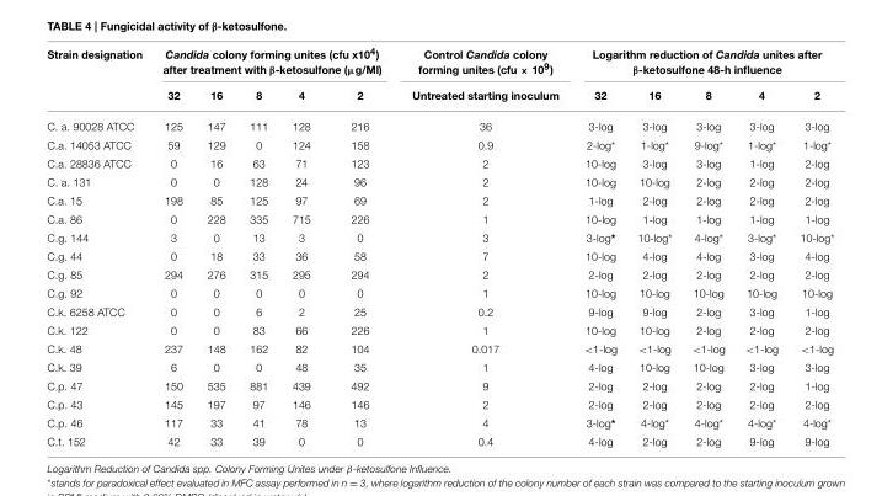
<table><thead><tr><td rowspan="2">Strain designation</td><td colspan="5">Candida colony forming unites (cfu x10<sup>4</sup>) after treatment with β-ketosulfone (µg/Ml)</td><td rowspan="2">Control Candida colony forming unites (cfu × 10<sup>9</sup>) Untreated starting inoculum</td><td colspan="5">Logarithm reduction of Candida unites after β-ketosulfone 48-h influence</td></tr><tr><td>32</td><td>16</td><td>8</td><td>4</td><td>2</td><td>32</td><td>16</td><td>8</td><td>4</td><td>2</td></tr></thead><tbody><tr><td>C. a. 90028 ATCC</td><td>125</td><td>147</td><td>111</td><td>128</td><td>216</td><td>36</td><td>3-log</td><td>3-log</td><td>3-log</td><td>3-log</td><td>3-log</td></tr><tr><td>C.a. 14053 ATCC</td><td>59</td><td>129</td><td>0</td><td>124</td><td>158</td><td>0.9</td><td>2-log*</td><td>1-log*</td><td>9-log*</td><td>1-log*</td><td>1-log*</td></tr><tr><td>C.a. 28836 ATCC</td><td>0</td><td>16</td><td>63</td><td>71</td><td>123</td><td>2</td><td>10-log</td><td>3-log</td><td>3-log</td><td>1-log</td><td>2-log</td></tr><tr><td>C. a. 131</td><td>0</td><td>0</td><td>128</td><td>24</td><td>96</td><td>2</td><td>10-log</td><td>10-log</td><td>2-log</td><td>2-log</td><td>2-log</td></tr><tr><td>C.a. 15</td><td>198</td><td>85</td><td>125</td><td>97</td><td>69</td><td>2</td><td>1-log</td><td>2-log</td><td>2-log</td><td>2-log</td><td>2-log</td></tr><tr><td>C.a. 86</td><td>0</td><td>228</td><td>335</td><td>715</td><td>226</td><td>1</td><td>10-log</td><td>1-log</td><td>1-log</td><td>1-log</td><td>1-log</td></tr><tr><td>C.g. 144</td><td>3</td><td>0</td><td>13</td><td>3</td><td>0</td><td>3</td><td>3-log*</td><td>10-log*</td><td>4-log*</td><td>3-log*</td><td>10-log*</td></tr><tr><td>C.g. 44</td><td>0</td><td>18</td><td>33</td><td>36</td><td>58</td><td>7</td><td>10-log</td><td>4-log</td><td>4-log</td><td>3-log</td><td>4-log</td></tr><tr><td>C.g. 85</td><td>294</td><td>276</td><td>315</td><td>295</td><td>294</td><td>2</td><td>2-log</td><td>2-log</td><td>2-log</td><td>2-log</td><td>2-log</td></tr><tr><td>C.g. 92</td><td>0</td><td>0</td><td>0</td><td>0</td><td>0</td><td>1</td><td>10-log</td><td>10-log</td><td>10-log</td><td>10-log</td><td>10-log</td></tr><tr><td>C.k. 6258 ATCC</td><td>0</td><td>0</td><td>6</td><td>2</td><td>25</td><td>0.2</td><td>9-log</td><td>9-log</td><td>2-log</td><td>3-log</td><td>1-log</td></tr><tr><td>C.k. 122</td><td>0</td><td>0</td><td>83</td><td>66</td><td>226</td><td>1</td><td>10-log</td><td>10-log</td><td>2-log</td><td>2-log</td><td>2-log</td></tr><tr><td>C.k. 48</td><td>237</td><td>148</td><td>162</td><td>82</td><td>104</td><td>0.017</td><td>&lt;1-log</td><td>&lt;1-log</td><td>&lt;1-log</td><td>&lt;1-log</td><td>&lt;1-log</td></tr><tr><td>C.k. 39</td><td>6</td><td>0</td><td>0</td><td>48</td><td>35</td><td>1</td><td>4-log</td><td>10-log</td><td>10-log</td><td>3-log</td><td>3-log</td></tr><tr><td>C.p. 47</td><td>150</td><td>535</td><td>881</td><td>439</td><td>492</td><td>9</td><td>2-log</td><td>2-log</td><td>2-log</td><td>2-log</td><td>1-log</td></tr><tr><td>C.p. 43</td><td>145</td><td>197</td><td>97</td><td>146</td><td>146</td><td>2</td><td>2-log</td><td>2-log</td><td>2-log</td><td>2-log</td><td>2-log</td></tr><tr><td>C.p. 46</td><td>117</td><td>33</td><td>41</td><td>78</td><td>13</td><td>4</td><td>3-log*</td><td>4-log*</td><td>4-log*</td><td>4-log*</td><td>4-log*</td></tr><tr><td>C.t. 152</td><td>42</td><td>33</td><td>39</td><td>0</td><td>0</td><td>0.4</td><td>4-log</td><td>2-log</td><td>2-log</td><td>9-log</td><td>9-log</td></tr></tbody></table>